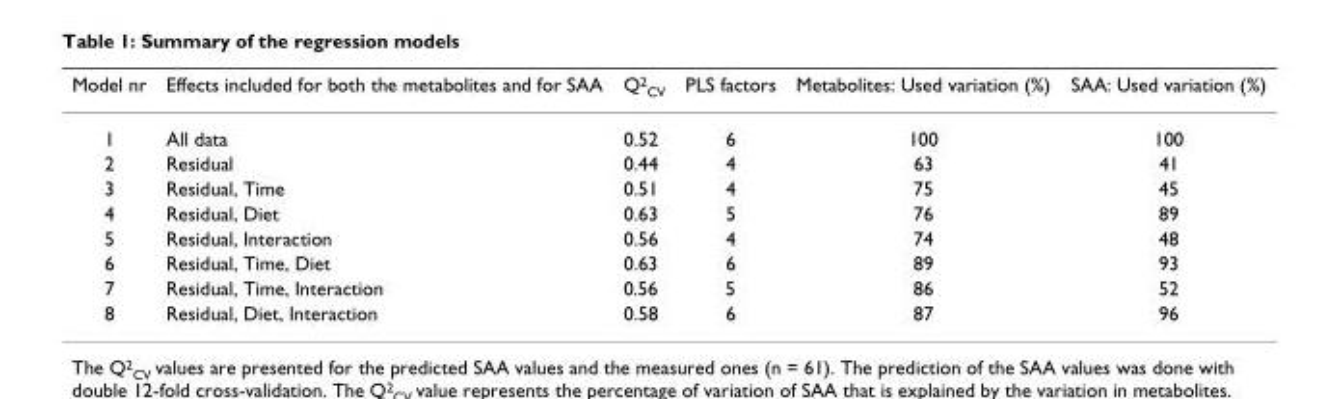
<table><thead><tr><td>Model nr</td><td>Effects included for both the metabolites and for SAA</td><td>Q<sup>2</sup><sub>CV</sub></td><td>PLS factors</td><td>Metabolites: Used variation (%)</td><td>SAA: Used variation (%)</td></tr></thead><tbody><tr><td>1</td><td>All data</td><td>0.52</td><td>6</td><td>100</td><td>100</td></tr><tr><td>2</td><td>Residual</td><td>0.44</td><td>4</td><td>63</td><td>41</td></tr><tr><td>3</td><td>Residual, Time</td><td>0.51</td><td>4</td><td>75</td><td>45</td></tr><tr><td>4</td><td>Residual, Diet</td><td>0.63</td><td>5</td><td>76</td><td>89</td></tr><tr><td>5</td><td>Residual, Interaction</td><td>0.56</td><td>4</td><td>74</td><td>48</td></tr><tr><td>6</td><td>Residual, Time, Diet</td><td>0.63</td><td>6</td><td>89</td><td>93</td></tr><tr><td>7</td><td>Residual, Time, Interaction</td><td>0.56</td><td>5</td><td>86</td><td>52</td></tr><tr><td>8</td><td>Residual, Diet, Interaction</td><td>0.58</td><td>6</td><td>87</td><td>96</td></tr></tbody></table>